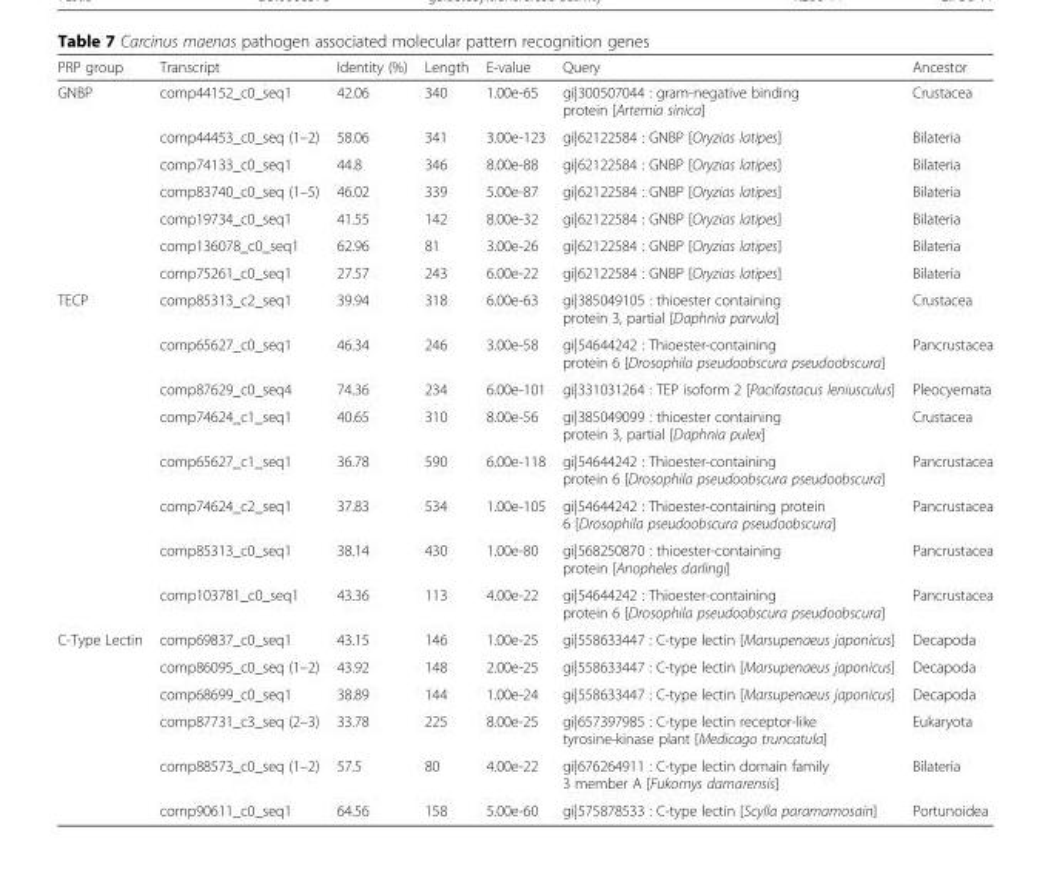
<table><thead><tr><td>PRP group</td><td>Transcript</td><td>Identity (%)</td><td>Length</td><td>E-value</td><td>Query</td><td>Ancestor</td></tr></thead><tbody><tr><td rowspan="7">GNBP</td><td>comp44152_c0_seq1</td><td>42.06</td><td>340</td><td>1.00e-65</td><td>gi|300507044 : gram-negative binding protein [Artemia sinica]</td><td>Crustacea</td></tr><tr><td>comp44453_c0_seq (1–2)</td><td>58.06</td><td>341</td><td>3.00e-123</td><td>gi|62122584 : GNBP [Oryzias latipes]</td><td>Bilateria</td></tr><tr><td>comp74133_c0_seq1</td><td>44.8</td><td>346</td><td>8.00e-88</td><td>gi|62122584 : GNBP [Oryzias latipes]</td><td>Bilateria</td></tr><tr><td>comp83740_c0_seq (1–5)</td><td>46.02</td><td>339</td><td>5.00e-87</td><td>gi|62122584 : GNBP [Oryzias latipes]</td><td>Bilateria</td></tr><tr><td>comp19734_c0_seq1</td><td>41.55</td><td>142</td><td>8.00e-32</td><td>gi|62122584 : GNBP [Oryzias latipes]</td><td>Bilateria</td></tr><tr><td>comp136078_c0_seq1</td><td>62.96</td><td>81</td><td>3.00e-26</td><td>gi|62122584 : GNBP [Oryzias latipes]</td><td>Bilateria</td></tr><tr><td>comp75261_c0_seq1</td><td>27.57</td><td>243</td><td>6.00e-22</td><td>gi|62122584 : GNBP [Oryzias latipes]</td><td>Bilateria</td></tr><tr><td rowspan="8">TECP</td><td>comp85313_c2_seq1</td><td>39.94</td><td>318</td><td>6.00e-63</td><td>gi|385049105 : thioester containing protein 3, partial [Daphnia parvula]</td><td>Crustacea</td></tr><tr><td>comp65627_c0_seq1</td><td>46.34</td><td>246</td><td>3.00e-58</td><td>gi|54644242 : Thioester-containing protein 6 [Drosophila pseudoobscura pseudoobscura]</td><td>Pancrustacea</td></tr><tr><td>comp87629_c0_seq4</td><td>74.36</td><td>234</td><td>6.00e-101</td><td>gi|331031264 : TEP isoform 2 [Pacifastacus leniusculus]</td><td>Pleocyemata</td></tr><tr><td>comp74624_c1_seq1</td><td>40.65</td><td>310</td><td>8.00e-56</td><td>gi|385049099 : thioester containing protein 3, partial [Daphnia pulex]</td><td>Crustacea</td></tr><tr><td>comp65627_c1_seq1</td><td>36.78</td><td>590</td><td>6.00e-118</td><td>gi|54644242 : Thioester-containing protein 6 [Drosophila pseudoobscura pseudoobscura]</td><td>Pancrustacea</td></tr><tr><td>comp74624_c2_seq1</td><td>37.83</td><td>534</td><td>1.00e-105</td><td>gi|54644242 : Thioester-containing protein 6 [Drosophila pseudoobscura pseudoobscura]</td><td>Pancrustacea</td></tr><tr><td>comp85313_c0_seq1</td><td>38.14</td><td>430</td><td>1.00e-80</td><td>gi|568250870 : thioester-containing protein [Anopheles darlingi]</td><td>Pancrustacea</td></tr><tr><td>comp103781_c0_seq1</td><td>43.36</td><td>113</td><td>4.00e-22</td><td>gi|54644242 : Thioester-containing protein 6 [Drosophila pseudoobscura pseudoobscura]</td><td>Pancrustacea</td></tr><tr><td rowspan="6">C-Type Lectin</td><td>comp69837_c0_seq1</td><td>43.15</td><td>146</td><td>1.00e-25</td><td>gi|558633447 : C-type lectin [Marsupenaeus japonicus]</td><td>Decapoda</td></tr><tr><td>comp86095_c0_seq (1–2)</td><td>43.92</td><td>148</td><td>2.00e-25</td><td>gi|558633447 : C-type lectin [Marsupenaeus japonicus]</td><td>Decapoda</td></tr><tr><td>comp68699_c0_seq1</td><td>38.89</td><td>144</td><td>1.00e-24</td><td>gi|558633447 : C-type lectin [Marsupenaeus japonicus]</td><td>Decapoda</td></tr><tr><td>comp87731_c3_seq (2–3)</td><td>33.78</td><td>225</td><td>8.00e-25</td><td>gi|657397985 : C-type lectin receptor-like tyrosine-kinase plant [Medicago truncatula]</td><td>Eukaryota</td></tr><tr><td>comp88573_c0_seq (1–2)</td><td>57.5</td><td>80</td><td>4.00e-22</td><td>gi|676264911 : C-type lectin domain family 3 member A [Fukomys damarensis]</td><td>Bilateria</td></tr><tr><td>comp90611_c0_seq1</td><td>64.56</td><td>158</td><td>5.00e-60</td><td>gi|575878533 : C-type lectin [Scylla paramamosain]</td><td>Portunoidea</td></tr></tbody></table>